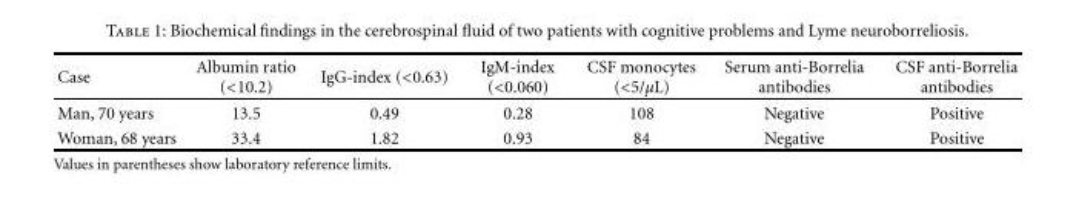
<table><thead><tr><td>Case</td><td>Albumin ratio (&lt;10.2)</td><td>IgG-index (&lt;0.63)</td><td>IgM-index (&lt;0.060)</td><td>CSF monocytes (&lt;5/μL)</td><td>Serum anti-Borrelia antibodies</td><td>CSF anti-Borrelia antibodies</td></tr></thead><tbody><tr><td>Man, 70 years</td><td>13.5</td><td>0.49</td><td>0.28</td><td>108</td><td>Negative</td><td>Positive</td></tr><tr><td>Woman, 68 years</td><td>33.4</td><td>1.82</td><td>0.93</td><td>84</td><td>Negative</td><td>Positive</td></tr></tbody></table>